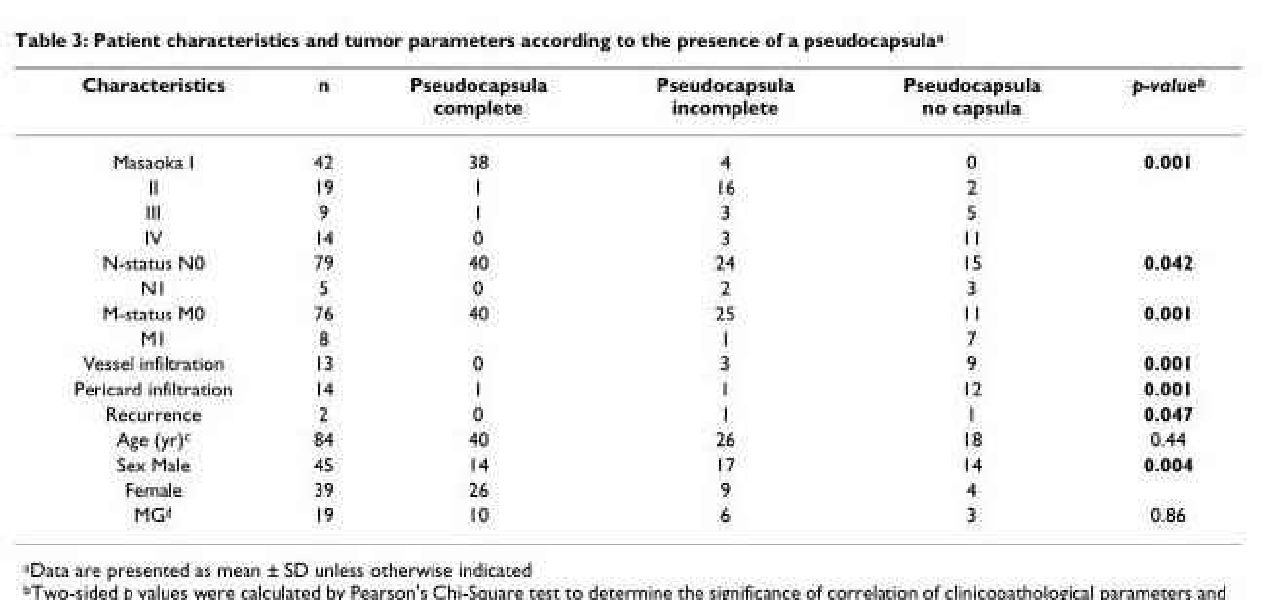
<table><thead><tr><td>Characteristics</td><td>n</td><td>Pseudocapsula complete</td><td>Pseudocapsula incomplete</td><td>Pseudocapsula no capsula</td><td>p-value<sup>b</sup></td></tr></thead><tbody><tr><td>Masaoka I</td><td>42</td><td>38</td><td>4</td><td>0</td><td>0.001</td></tr><tr><td>II</td><td>19</td><td>1</td><td>16</td><td>2</td><td></td></tr><tr><td>III</td><td>9</td><td>1</td><td>3</td><td>5</td><td></td></tr><tr><td>IV</td><td>14</td><td>0</td><td>3</td><td>11</td><td></td></tr><tr><td>N-status N0</td><td>79</td><td>40</td><td>24</td><td>15</td><td>0.042</td></tr><tr><td>N1</td><td>5</td><td>0</td><td>2</td><td>3</td><td></td></tr><tr><td>M-status M0</td><td>76</td><td>40</td><td>25</td><td>11</td><td>0.001</td></tr><tr><td>M1</td><td>8</td><td></td><td>1</td><td>7</td><td></td></tr><tr><td>Vessel infiltration</td><td>13</td><td>0</td><td>3</td><td>9</td><td>0.001</td></tr><tr><td>Pericard infiltration</td><td>14</td><td>1</td><td>1</td><td>12</td><td>0.001</td></tr><tr><td>Recurrence</td><td>2</td><td>0</td><td>1</td><td>1</td><td>0.047</td></tr><tr><td>Age (yr)<sup>c</sup></td><td>84</td><td>40</td><td>26</td><td>18</td><td>0.44</td></tr><tr><td>Sex Male</td><td>45</td><td>14</td><td>17</td><td>14</td><td>0.004</td></tr><tr><td>Female</td><td>39</td><td>26</td><td>9</td><td>4</td><td></td></tr><tr><td>MG<sup>d</sup></td><td>19</td><td>10</td><td>6</td><td>3</td><td>0.86</td></tr></tbody></table>